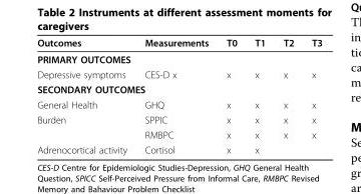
<table><thead><tr><td>Outcomes</td><td>Measurements</td><td>T0</td><td>T1</td><td>T2</td><td>T3</td></tr></thead><tbody><tr><td colspan="6">PRIMARY OUTCOMES</td></tr><tr><td>Depressive symptoms</td><td>CES-D x</td><td>x</td><td>x</td><td>x</td><td>x</td></tr><tr><td colspan="6">SECONDARY OUTCOMES</td></tr><tr><td>General Health</td><td>GHQ</td><td>x</td><td>x</td><td>x</td><td>x</td></tr><tr><td rowspan="2">Burden</td><td>SPPIC</td><td>x</td><td>x</td><td>x</td><td>x</td></tr><tr><td>RMBPC</td><td>x</td><td>x</td><td>x</td><td>x</td></tr><tr><td>Adrenocortical activity</td><td>Cortisol</td><td>x</td><td>x</td><td></td><td></td></tr></tbody></table>